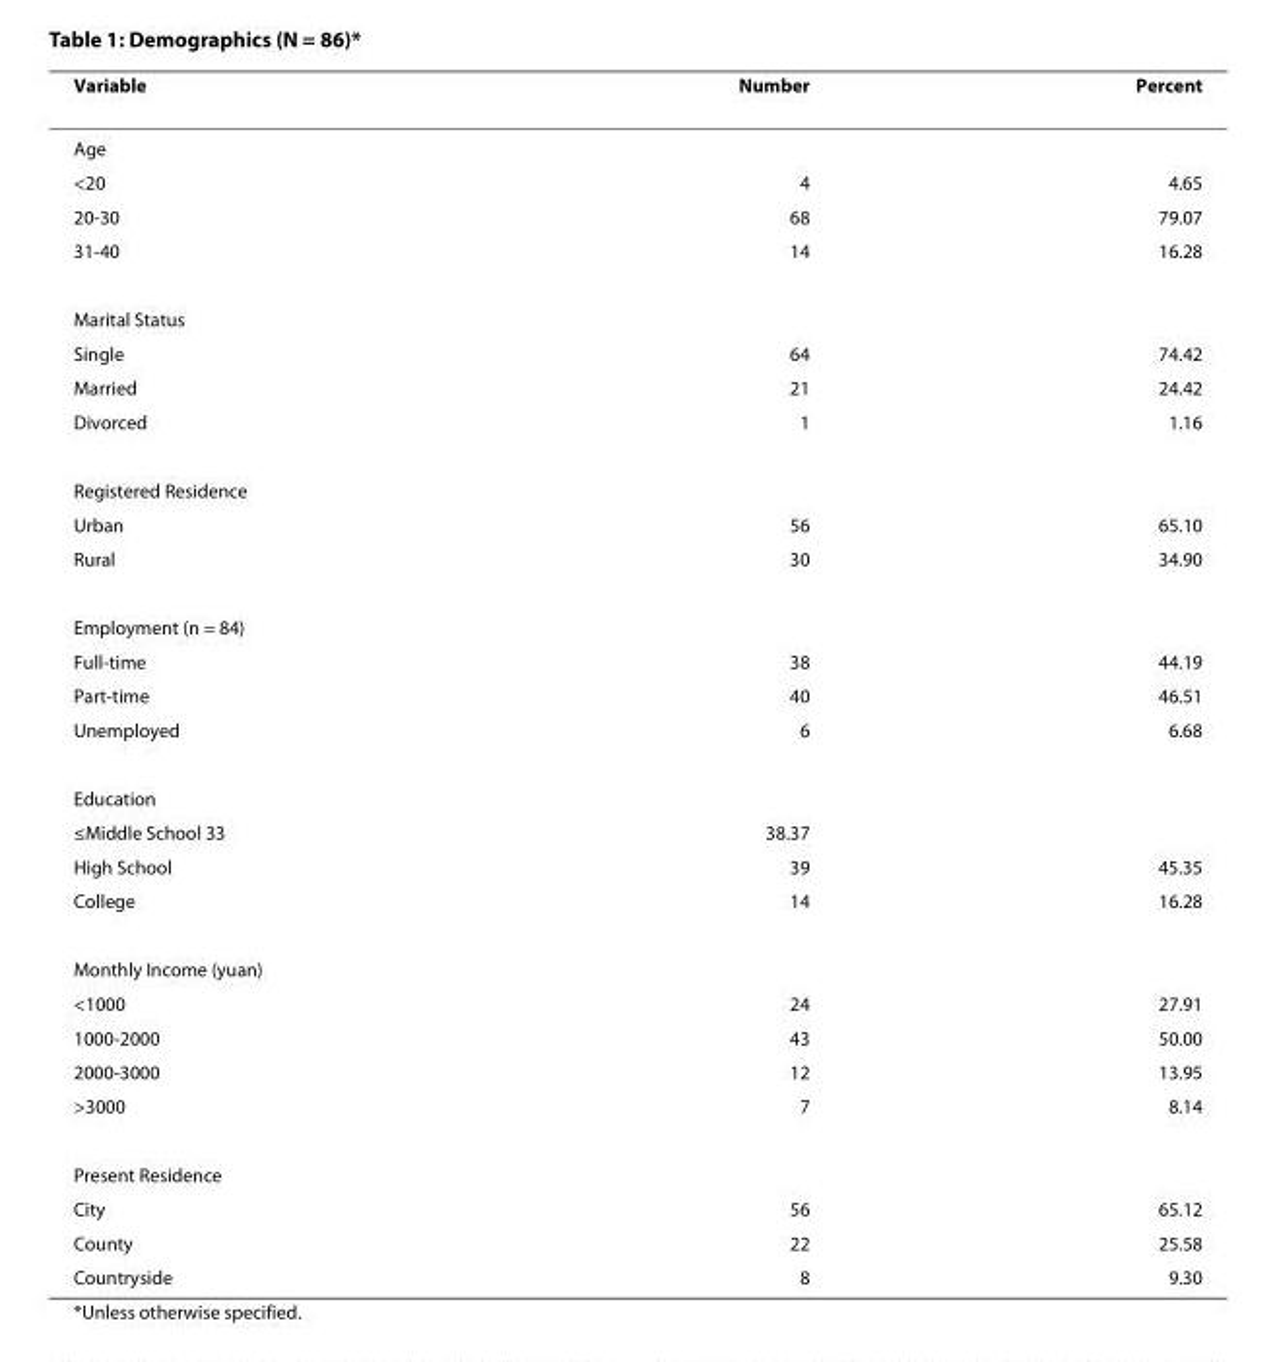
<table><thead><tr><td>Variable</td><td>Number</td><td>Percent</td></tr></thead><tbody><tr><td colspan="3">Age</td></tr><tr><td>&lt;20</td><td>4</td><td>4.65</td></tr><tr><td>20-30</td><td>68</td><td>79.07</td></tr><tr><td>31-40</td><td>14</td><td>16.28</td></tr><tr><td colspan="3">Marital Status</td></tr><tr><td>Single</td><td>64</td><td>74.42</td></tr><tr><td>Married</td><td>21</td><td>24.42</td></tr><tr><td>Divorced</td><td>1</td><td>1.16</td></tr><tr><td colspan="3">Registered Residence</td></tr><tr><td>Urban</td><td>56</td><td>65.10</td></tr><tr><td>Rural</td><td>30</td><td>34.90</td></tr><tr><td colspan="3">Employment (n = 84)</td></tr><tr><td>Full-time</td><td>38</td><td>44.19</td></tr><tr><td>Part-time</td><td>40</td><td>46.51</td></tr><tr><td>Unemployed</td><td>6</td><td>6.68</td></tr><tr><td colspan="3">Education</td></tr><tr><td>≤Middle School 33</td><td>38.37</td><td></td></tr><tr><td>High School</td><td>39</td><td>45.35</td></tr><tr><td>College</td><td>14</td><td>16.28</td></tr><tr><td colspan="3">Monthly Income (yuan)</td></tr><tr><td>&lt;1000</td><td>24</td><td>27.91</td></tr><tr><td>1000-2000</td><td>43</td><td>50.00</td></tr><tr><td>2000-3000</td><td>12</td><td>13.95</td></tr><tr><td>&gt;3000</td><td>7</td><td>8.14</td></tr><tr><td colspan="3">Present Residence</td></tr><tr><td>City</td><td>56</td><td>65.12</td></tr><tr><td>County</td><td>22</td><td>25.58</td></tr><tr><td>Countryside</td><td>8</td><td>9.30</td></tr></tbody></table>